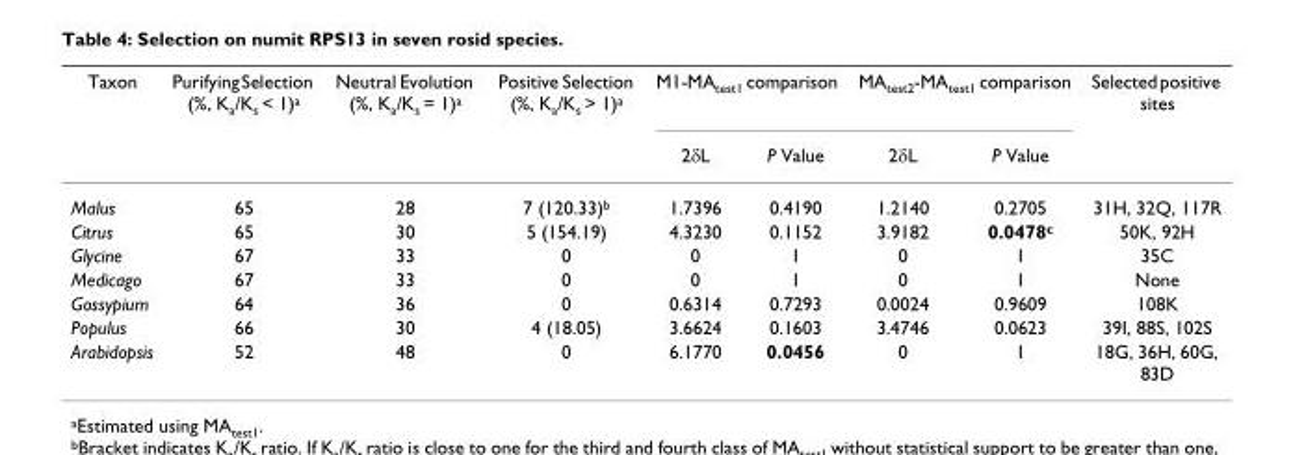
<table><thead><tr><td rowspan="2">Taxon</td><td rowspan="2">Purifying Selection (%, K<sub>a</sub>/K<sub>s</sub> &lt; 1)<sup>a</sup></td><td rowspan="2">Neutral Evolution (%, K<sub>a</sub>/K<sub>s</sub> = 1)<sup>a</sup></td><td rowspan="2">Positive Selection (%, K<sub>a</sub>/K<sub>s</sub> &gt; 1)<sup>a</sup></td><td colspan="2">M1-MA<sub>test1</sub> comparison</td><td colspan="2">MA<sub>test2</sub>-MA<sub>test1</sub> comparison</td><td rowspan="2">Selected positive sites</td></tr><tr><td>2δL</td><td>P Value</td><td>2δL</td><td>P Value</td></tr></thead><tbody><tr><td>Malus</td><td>65</td><td>28</td><td>7 (120.33)<sup>b</sup></td><td>1.7396</td><td>0.4190</td><td>1.2140</td><td>0.2705</td><td>31H, 32Q, 117R</td></tr><tr><td>Citrus</td><td>65</td><td>30</td><td>5 (154.19)</td><td>4.3230</td><td>0.1152</td><td>3.9182</td><td>0.0478<sup>c</sup></td><td>50K, 92H</td></tr><tr><td>Glycine</td><td>67</td><td>33</td><td>0</td><td>0</td><td>1</td><td>0</td><td>1</td><td>35C</td></tr><tr><td>Medicago</td><td>67</td><td>33</td><td>0</td><td>0</td><td>1</td><td>0</td><td>1</td><td>None</td></tr><tr><td>Gossypium</td><td>64</td><td>36</td><td>0</td><td>0.6314</td><td>0.7293</td><td>0.0024</td><td>0.9609</td><td>108K</td></tr><tr><td>Populus</td><td>66</td><td>30</td><td>4 (18.05)</td><td>3.6624</td><td>0.1603</td><td>3.4746</td><td>0.0623</td><td>39I, 88S, 102S</td></tr><tr><td>Arabidopsis</td><td>52</td><td>48</td><td>0</td><td>6.1770</td><td>0.0456</td><td>0</td><td>1</td><td>18G, 36H, 60G, 83D</td></tr></tbody></table>